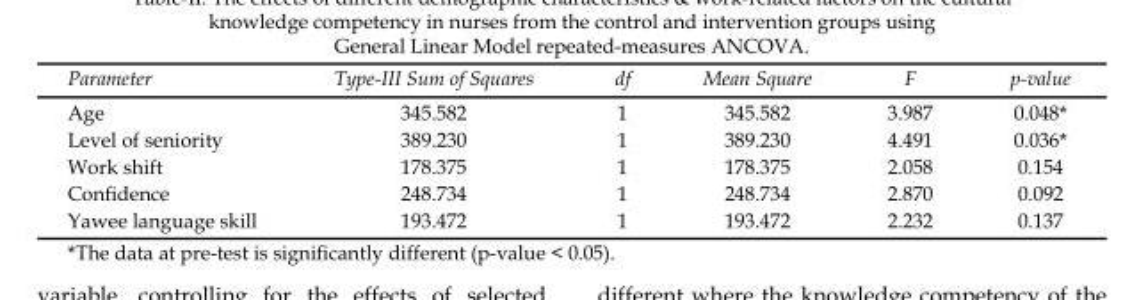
<table><thead><tr><td>Parameter</td><td>Type-III Sum of Squares</td><td>df</td><td>Mean Square</td><td>F</td><td>p-value</td></tr></thead><tbody><tr><td>Age</td><td>345.582</td><td>1</td><td>345.582</td><td>3.987</td><td>0.048*</td></tr><tr><td>Level of seniority</td><td>389.230</td><td>1</td><td>389.230</td><td>4.491</td><td>0.036*</td></tr><tr><td>Work shift</td><td>178.375</td><td>1</td><td>178.375</td><td>2.058</td><td>0.154</td></tr><tr><td>Confidence</td><td>248.734</td><td>1</td><td>248.734</td><td>2.870</td><td>0.092</td></tr><tr><td>Yawee language skill</td><td>193.472</td><td>1</td><td>193.472</td><td>2.232</td><td>0.137</td></tr></tbody></table>